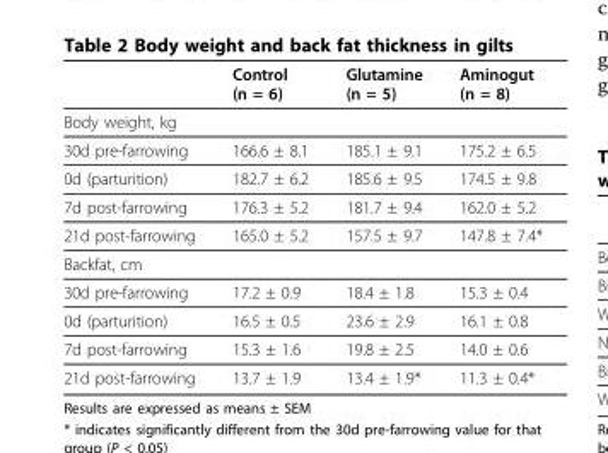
<table><thead><tr><td></td><td>Control (n = 6)</td><td>Glutamine (n = 5)</td><td>Aminogut (n = 8)</td></tr></thead><tbody><tr><td colspan="4">Body weight, kg</td></tr><tr><td>30d pre-farrowing</td><td>166.6 ± 8.1</td><td>185.1 ± 9.1</td><td>175.2 ± 6.5</td></tr><tr><td>0d (parturition)</td><td>182.7 ± 6.2</td><td>185.6 ± 9.5</td><td>174.5 ± 9.8</td></tr><tr><td>7d post-farrowing</td><td>176.3 ± 5.2</td><td>181.7 ± 9.4</td><td>162.0 ± 5.2</td></tr><tr><td>21d post-farrowing</td><td>165.0 ± 5.2</td><td>157.5 ± 9.7</td><td>147.8 ± 7.4*</td></tr><tr><td colspan="4">Backfat, cm</td></tr><tr><td>30d pre-farrowing</td><td>17.2 ± 0.9</td><td>18.4 ± 1.8</td><td>15.3 ± 0.4</td></tr><tr><td>0d (parturition)</td><td>16.5 ± 0.5</td><td>23.6 ± 2.9</td><td>16.1 ± 0.8</td></tr><tr><td>7d post-farrowing</td><td>15.3 ± 1.6</td><td>19.8 ± 2.5</td><td>14.0 ± 0.6</td></tr><tr><td>21d post-farrowing</td><td>13.7 ± 1.9</td><td>13.4 ± 1.9*</td><td>11.3 ± 0.4*</td></tr></tbody></table>